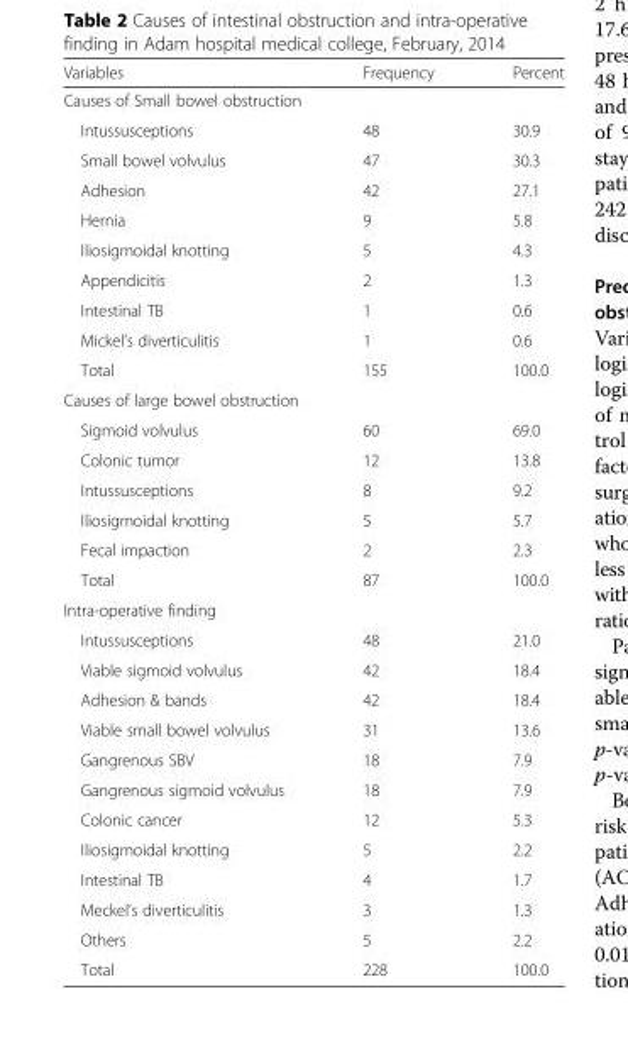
<table><thead><tr><td>Variables</td><td>Frequency</td><td>Percent</td></tr></thead><tbody><tr><td colspan="3">Causes of Small bowel obstruction</td></tr><tr><td>Intussusceptions</td><td>48</td><td>30.9</td></tr><tr><td>Small bowel volvulus</td><td>47</td><td>30.3</td></tr><tr><td>Adhesion</td><td>42</td><td>27.1</td></tr><tr><td>Hernia</td><td>9</td><td>5.8</td></tr><tr><td>Iliosigmoidal knotting</td><td>5</td><td>4.3</td></tr><tr><td>Appendicitis</td><td>2</td><td>1.3</td></tr><tr><td>Intestinal TB</td><td>1</td><td>0.6</td></tr><tr><td>Mickel’s diverticulitis</td><td>1</td><td>0.6</td></tr><tr><td>Total</td><td>155</td><td>100.0</td></tr><tr><td colspan="3">Causes of large bowel obstruction</td></tr><tr><td>Sigmoid volvulus</td><td>60</td><td>69.0</td></tr><tr><td>Colonic tumor</td><td>12</td><td>13.8</td></tr><tr><td>Intussusceptions</td><td>8</td><td>9.2</td></tr><tr><td>Iliosigmoidal knotting</td><td>5</td><td>5.7</td></tr><tr><td>Fecal impaction</td><td>2</td><td>2.3</td></tr><tr><td>Total</td><td>87</td><td>100.0</td></tr><tr><td colspan="3">Intra-operative finding</td></tr><tr><td>Intussusceptions</td><td>48</td><td>21.0</td></tr><tr><td>Viable sigmoid volvulus</td><td>42</td><td>18.4</td></tr><tr><td>Adhesion &amp; bands</td><td>42</td><td>18.4</td></tr><tr><td>Viable small bowel volvulus</td><td>31</td><td>13.6</td></tr><tr><td>Gangrenous SBV</td><td>18</td><td>7.9</td></tr><tr><td>Gangrenous sigmoid volvulus</td><td>18</td><td>7.9</td></tr><tr><td>Colonic cancer</td><td>12</td><td>5.3</td></tr><tr><td>Iliosigmoidal knotting</td><td>5</td><td>2.2</td></tr><tr><td>Intestinal TB</td><td>4</td><td>1.7</td></tr><tr><td>Meckel’s diverticulitis</td><td>3</td><td>1.3</td></tr><tr><td>Others</td><td>5</td><td>2.2</td></tr><tr><td>Total</td><td>228</td><td>100.0</td></tr></tbody></table>